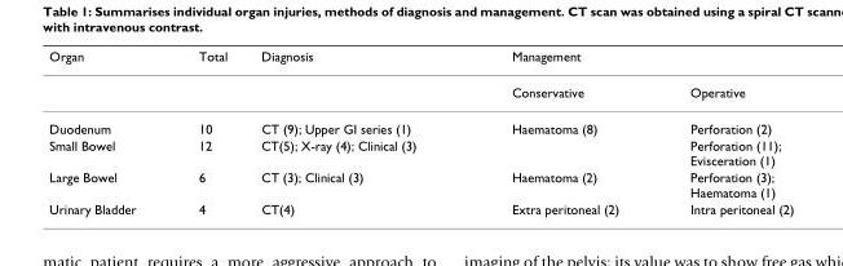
<table><thead><tr><td rowspan="2">Organ</td><td rowspan="2">Total</td><td rowspan="2">Diagnosis</td><td colspan="2">Management</td></tr><tr><td>Conservative</td><td>Operative</td></tr></thead><tbody><tr><td>Duodenum</td><td>10</td><td>CT (9); Upper GI series (1)</td><td>Haematoma (8)</td><td>Perforation (2)</td></tr><tr><td>Small Bowel</td><td>12</td><td>CT(5); X-ray (4); Clinical (3)</td><td></td><td>Perforation (11); Evisceration (1)</td></tr><tr><td>Large Bowel</td><td>6</td><td>CT (3); Clinical (3)</td><td>Haematoma (2)</td><td>Perforation (3); Haematoma (1)</td></tr><tr><td>Urinary Bladder</td><td>4</td><td>CT(4)</td><td>Extra peritoneal (2)</td><td>Intra peritoneal (2)</td></tr></tbody></table>